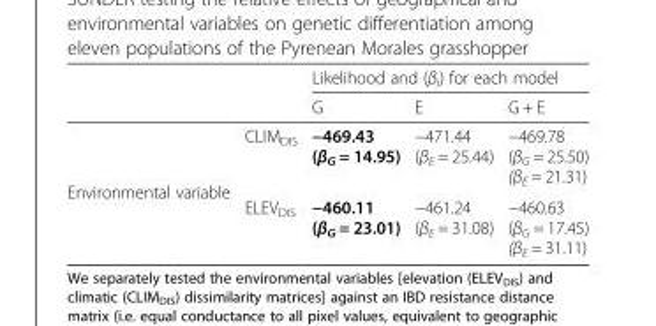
<table><thead><tr><td rowspan="2"></td><td rowspan="2"></td><td colspan="3">Likelihood and (β<sub>i</sub>) for each model</td></tr><tr><td>G</td><td>E</td><td>G + E</td></tr></thead><tbody><tr><td rowspan="2">Environmental variable</td><td>CLIM<sub>DIS</sub></td><td>−469.43 (β<sub>G</sub> = 14.95)</td><td>−471.44 (β<sub>E</sub> = 25.44)</td><td>−469.78 (β<sub>G</sub> = 25.50) (β<sub>E</sub> = 21.31)</td></tr><tr><td>ELEV<sub>DIS</sub></td><td>−460.11 (β<sub>G</sub> = 23.01)</td><td>−461.24 (β<sub>E</sub> = 31.08)</td><td>−460.63 (β<sub>G</sub> = 17.45) (β<sub>E</sub> = 31.11)</td></tr></tbody></table>